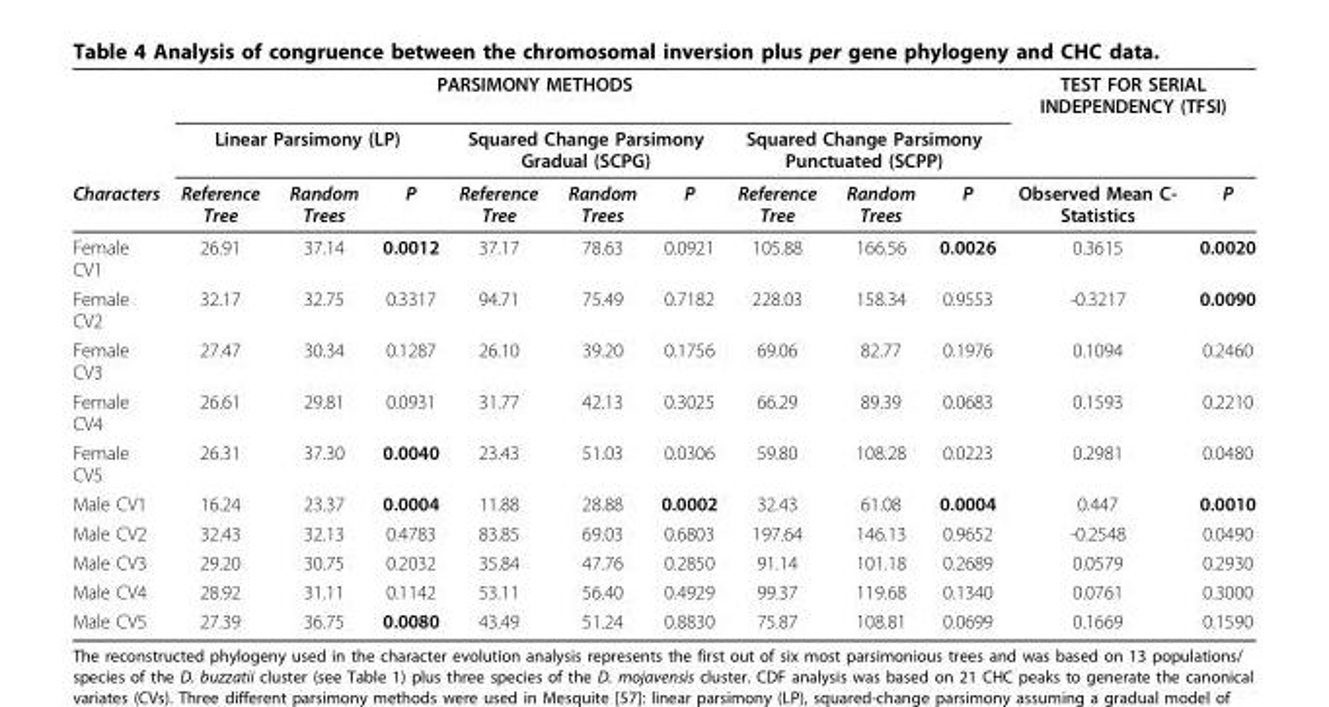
<table><thead><tr><td colspan="10">PARSIMONY METHODS</td><td colspan="2">TEST FOR SERIAL INDEPENDENCY (TFSI)</td></tr><tr><td rowspan="2">Characters</td><td colspan="3">Linear Parsimony (LP)</td><td colspan="3">Squared Change Parsimony Gradual (SCPG)</td><td colspan="3">Squared Change Parsimony Punctuated (SCPP)</td><td rowspan="2">Observed Mean C- Statistics</td><td rowspan="2">P</td></tr><tr><td>Reference Tree</td><td>Random Trees</td><td>P</td><td>Reference Tree</td><td>Random Trees</td><td>P</td><td>Reference Tree</td><td>Random Trees</td><td>P</td></tr></thead><tbody><tr><td>Female CV1</td><td>26.91</td><td>37.14</td><td>0.0012</td><td>37.17</td><td>78.63</td><td>0.0921</td><td>105.88</td><td>166.56</td><td>0.0026</td><td>0.3615</td><td>0.0020</td></tr><tr><td>Female CV2</td><td>32.17</td><td>32.75</td><td>0.3317</td><td>94.71</td><td>75.49</td><td>0.7182</td><td>228.03</td><td>158.34</td><td>0.9553</td><td>-0.3217</td><td>0.0090</td></tr><tr><td>Female CV3</td><td>27.47</td><td>30.34</td><td>0.1287</td><td>26.10</td><td>39.20</td><td>0.1756</td><td>69.06</td><td>82.77</td><td>0.1976</td><td>0.1094</td><td>0.2460</td></tr><tr><td>Female CV4</td><td>26.61</td><td>29.81</td><td>0.0931</td><td>31.77</td><td>42.13</td><td>0.3025</td><td>66.29</td><td>89.39</td><td>0.0683</td><td>0.1593</td><td>0.2210</td></tr><tr><td>Female CV5</td><td>26.31</td><td>37.30</td><td>0.0040</td><td>23.43</td><td>51.03</td><td>0.0306</td><td>59.80</td><td>108.28</td><td>0.0223</td><td>0.2981</td><td>0.0480</td></tr><tr><td>Male CV1</td><td>16.24</td><td>23.37</td><td>0.0004</td><td>11.88</td><td>28.88</td><td>0.0002</td><td>32.43</td><td>61.08</td><td>0.0004</td><td>0.447</td><td>0.0010</td></tr><tr><td>Male CV2</td><td>32.43</td><td>32.13</td><td>0.4783</td><td>83.85</td><td>69.03</td><td>0.6803</td><td>197.64</td><td>146.13</td><td>0.9652</td><td>-0.2548</td><td>0.0490</td></tr><tr><td>Male CV3</td><td>29.20</td><td>30.75</td><td>0.2032</td><td>35.84</td><td>47.76</td><td>0.2850</td><td>91.14</td><td>101.18</td><td>0.2689</td><td>0.0579</td><td>0.2930</td></tr><tr><td>Male CV4</td><td>28.92</td><td>31.11</td><td>0.1142</td><td>53.11</td><td>56.40</td><td>0.4929</td><td>99.37</td><td>119.68</td><td>0.1340</td><td>0.0761</td><td>0.3000</td></tr><tr><td>Male CV5</td><td>27.39</td><td>36.75</td><td>0.0080</td><td>43.49</td><td>51.24</td><td>0.8830</td><td>75.87</td><td>108.81</td><td>0.0699</td><td>0.1669</td><td>0.1590</td></tr></tbody></table>